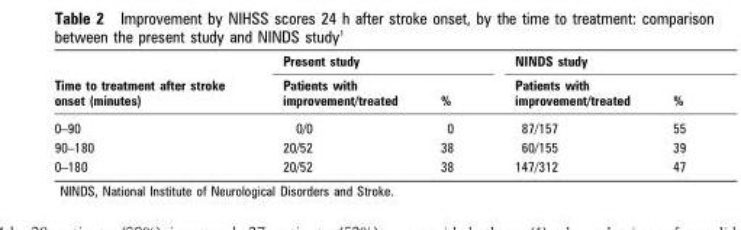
<table><thead><tr><td rowspan="2">Time to treatment after stroke onset (minutes)</td><td colspan="2">Present study</td><td colspan="2">NINDS study</td></tr><tr><td>Patients with improvement/treated</td><td>%</td><td>Patients with improvement/treated</td><td>%</td></tr></thead><tbody><tr><td>0–90</td><td>0/0</td><td>0</td><td>87/157</td><td>55</td></tr><tr><td>90–180</td><td>20/52</td><td>38</td><td>60/155</td><td>39</td></tr><tr><td>0–180</td><td>20/52</td><td>38</td><td>147/312</td><td>47</td></tr></tbody></table>